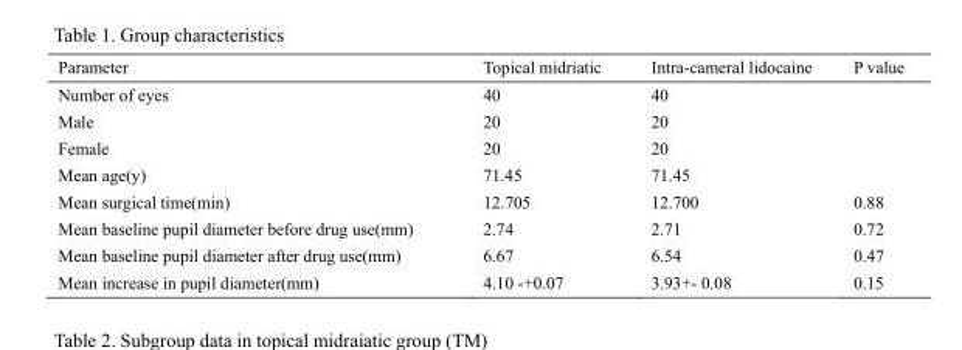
<table><thead><tr><td>Parameter</td><td>Topical midriatic</td><td>Intra-cameral lidocaine</td><td>P value</td></tr></thead><tbody><tr><td>Number of eyes</td><td>40</td><td>40</td><td></td></tr><tr><td>Male</td><td>20</td><td>20</td><td></td></tr><tr><td>Female</td><td>20</td><td>20</td><td></td></tr><tr><td>Mean age(y)</td><td>71.45</td><td>71.45</td><td></td></tr><tr><td>Mean surgical time(min)</td><td>12.705</td><td>12.700</td><td>0.88</td></tr><tr><td>Mean baseline pupil diameter before drug use(mm)</td><td>2.74</td><td>2.71</td><td>0.72</td></tr><tr><td>Mean baseline pupil diameter after drug use(mm)</td><td>6.67</td><td>6.54</td><td>0.47</td></tr><tr><td>Mean increase in pupil diameter(mm)</td><td>4.10 -+0.07</td><td>3.93+- 0.08</td><td>0.15</td></tr></tbody></table>